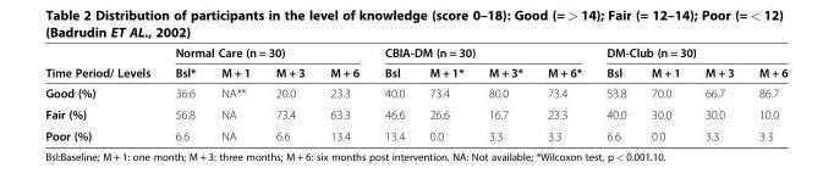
<table><thead><tr><td rowspan="2">Time Period/ Levels</td><td colspan="4">Normal Care (n = 30)</td><td colspan="4">CBIA-DM (n = 30)</td><td colspan="4">DM-Club (n = 30)</td></tr><tr><td>Bsl*</td><td>M + 1</td><td>M + 3</td><td>M + 6</td><td>Bsl</td><td>M + 1*</td><td>M + 3*</td><td>M + 6*</td><td>Bsl</td><td>M + 1</td><td>M + 3</td><td>M + 6</td></tr></thead><tbody><tr><td>Good (%)</td><td>36.6</td><td>NA**</td><td>20.0</td><td>23.3</td><td>40.0</td><td>73.4</td><td>80.0</td><td>73.4</td><td>53.8</td><td>70.0</td><td>66.7</td><td>86.7</td></tr><tr><td>Fair (%)</td><td>56.8</td><td>NA</td><td>73.4</td><td>63.3</td><td>46.6</td><td>26.6</td><td>16.7</td><td>23.3</td><td>40.0</td><td>30.0</td><td>30.0</td><td>10.0</td></tr><tr><td>Poor (%)</td><td>6.6</td><td>NA</td><td>6.6</td><td>13.4</td><td>13.4</td><td>0.0</td><td>3.3</td><td>3.3</td><td>6.6</td><td>0.0</td><td>3.3</td><td>3.3</td></tr></tbody></table>